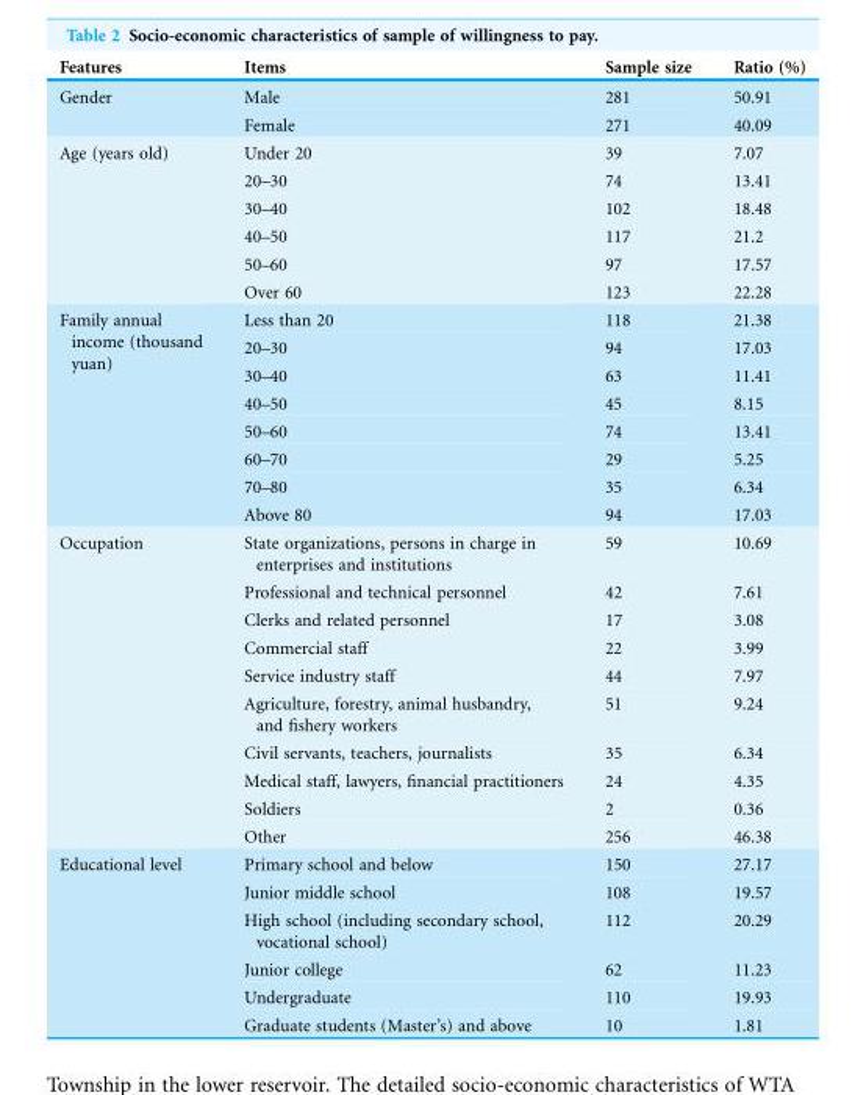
<table><thead><tr><td>Features</td><td>Items</td><td>Sample size</td><td>Ratio (%)</td></tr></thead><tbody><tr><td rowspan="2">Gender</td><td>Male</td><td>281</td><td>50.91</td></tr><tr><td>Female</td><td>271</td><td>40.09</td></tr><tr><td rowspan="6">Age (years old)</td><td>Under 20</td><td>39</td><td>7.07</td></tr><tr><td>20–30</td><td>74</td><td>13.41</td></tr><tr><td>30–40</td><td>102</td><td>18.48</td></tr><tr><td>40–50</td><td>117</td><td>21.2</td></tr><tr><td>50–60</td><td>97</td><td>17.57</td></tr><tr><td>Over 60</td><td>123</td><td>22.28</td></tr><tr><td rowspan="8">Family annual income (thousand yuan)</td><td>Less than 20</td><td>118</td><td>21.38</td></tr><tr><td>20–30</td><td>94</td><td>17.03</td></tr><tr><td>30–40</td><td>63</td><td>11.41</td></tr><tr><td>40–50</td><td>45</td><td>8.15</td></tr><tr><td>50–60</td><td>74</td><td>13.41</td></tr><tr><td>60–70</td><td>29</td><td>5.25</td></tr><tr><td>70–80</td><td>35</td><td>6.34</td></tr><tr><td>Above 80</td><td>94</td><td>17.03</td></tr><tr><td rowspan="10">Occupation</td><td>State organizations, persons in charge in enterprises and institutions</td><td>59</td><td>10.69</td></tr><tr><td>Professional and technical personnel</td><td>42</td><td>7.61</td></tr><tr><td>Clerks and related personnel</td><td>17</td><td>3.08</td></tr><tr><td>Commercial staff</td><td>22</td><td>3.99</td></tr><tr><td>Service industry staff</td><td>44</td><td>7.97</td></tr><tr><td>Agriculture, forestry, animal husbandry, and fishery workers</td><td>51</td><td>9.24</td></tr><tr><td>Civil servants, teachers, journalists</td><td>35</td><td>6.34</td></tr><tr><td>Medical staff, lawyers, financial practitioners</td><td>24</td><td>4.35</td></tr><tr><td>Soldiers</td><td>2</td><td>0.36</td></tr><tr><td>Other</td><td>256</td><td>46.38</td></tr><tr><td rowspan="6">Educational level</td><td>Primary school and below</td><td>150</td><td>27.17</td></tr><tr><td>Junior middle school</td><td>108</td><td>19.57</td></tr><tr><td>High school (including secondary school, vocational school)</td><td>112</td><td>20.29</td></tr><tr><td>Junior college</td><td>62</td><td>11.23</td></tr><tr><td>Undergraduate</td><td>110</td><td>19.93</td></tr><tr><td>Graduate students (Master’s) and above</td><td>10</td><td>1.81</td></tr></tbody></table>